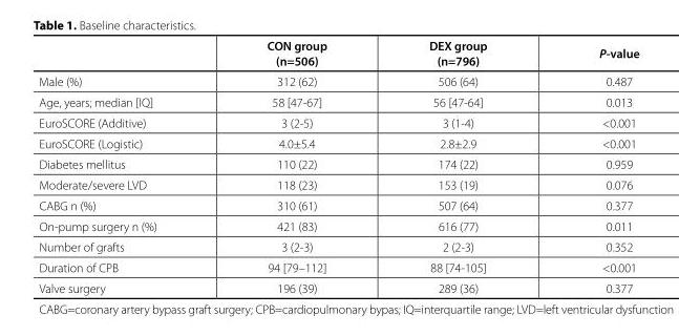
<table><thead><tr><td></td><td>CON group (n=506)</td><td>DEX group (n=796)</td><td>P-value</td></tr></thead><tbody><tr><td>Male (%)</td><td>312 (62)</td><td>506 (64)</td><td>0.487</td></tr><tr><td>Age, years; median [IQ]</td><td>58 [47-67]</td><td>56 [47-64]</td><td>0.013</td></tr><tr><td>EuroSCORE (Additive)</td><td>3 (2-5)</td><td>3 (1-4)</td><td>&lt;0.001</td></tr><tr><td>EuroSCORE (Logistic)</td><td>4.0±5.4</td><td>2.8±2.9</td><td>&lt;0.001</td></tr><tr><td>Diabetes mellitus</td><td>110 (22)</td><td>174 (22)</td><td>0.959</td></tr><tr><td>Moderate/severe LVD</td><td>118 (23)</td><td>153 (19)</td><td>0.076</td></tr><tr><td>CABG n (%)</td><td>310 (61)</td><td>507 (64)</td><td>0.377</td></tr><tr><td>On-pump surgery n (%)</td><td>421 (83)</td><td>616 (77)</td><td>0.011</td></tr><tr><td>Number of grafts</td><td>3 (2-3)</td><td>2 (2-3)</td><td>0.352</td></tr><tr><td>Duration of CPB</td><td>94 [79–112]</td><td>88 [74-105]</td><td>&lt;0.001</td></tr><tr><td>Valve surgery</td><td>196 (39)</td><td>289 (36)</td><td>0.377</td></tr></tbody></table>